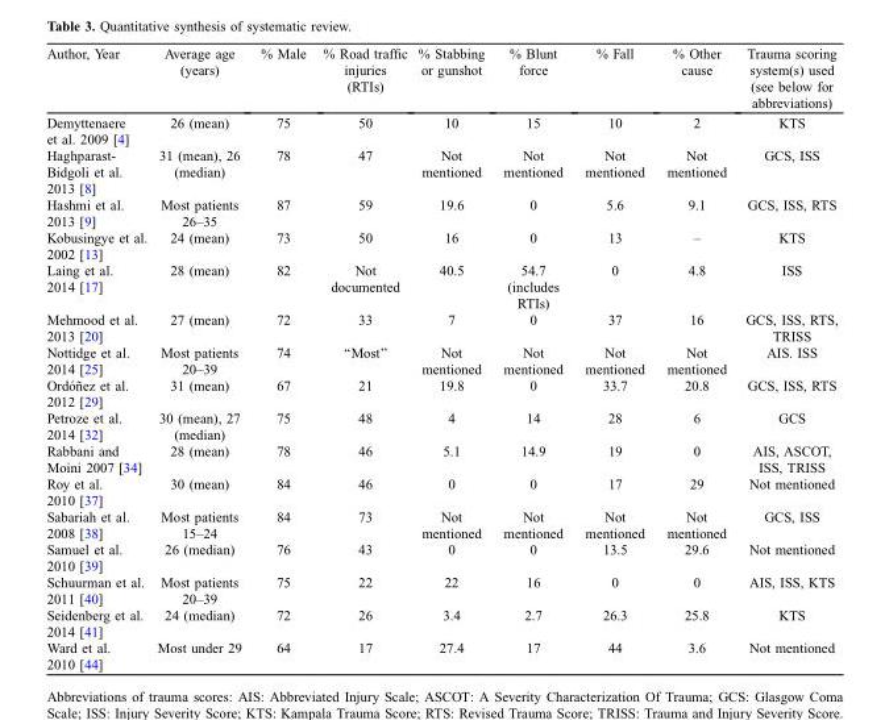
<table><thead><tr><td>Author, Year</td><td>Average age (years)</td><td>% Male</td><td>% Road traffic injuries (RTIs)</td><td>% Stabbing or gunshot</td><td>% Blunt force</td><td>% Fall</td><td>% Other cause</td><td>Trauma scoring system(s) used (see below for abbreviations)</td></tr></thead><tbody><tr><td>Demyttenaere et al. 2009 [4]</td><td>26 (mean)</td><td>75</td><td>50</td><td>10</td><td>15</td><td>10</td><td>2</td><td>KTS</td></tr><tr><td>Haghparast- Bidgoli et al. 2013 [8]</td><td>31 (mean), 26 (median)</td><td>78</td><td>47</td><td>Not mentioned</td><td>Not mentioned</td><td>Not mentioned</td><td>Not mentioned</td><td>GCS, ISS</td></tr><tr><td>Hashmi et al. 2013 [9]</td><td>Most patients 26–35</td><td>87</td><td>59</td><td>19.6</td><td>0</td><td>5.6</td><td>9.1</td><td>GCS, ISS, RTS</td></tr><tr><td>Kobusingye et al. 2002 [13]</td><td>24 (mean)</td><td>73</td><td>50</td><td>16</td><td>0</td><td>13</td><td>–</td><td>KTS</td></tr><tr><td>Laing et al. 2014 [17]</td><td>28 (mean)</td><td>82</td><td>Not documented</td><td>40.5</td><td>54.7 (includes RTIs)</td><td>0</td><td>4.8</td><td>ISS</td></tr><tr><td>Mehmood et al. 2013 [20]</td><td>27 (mean)</td><td>72</td><td>33</td><td>7</td><td>0</td><td>37</td><td>16</td><td>GCS, ISS, RTS, TRISS</td></tr><tr><td>Nottidge et al. 2014 [25]</td><td>Most patients 20–39</td><td>74</td><td>‘‘Most’’</td><td>Not mentioned</td><td>Not mentioned</td><td>Not mentioned</td><td>Not mentioned</td><td>AIS. ISS</td></tr><tr><td>Ordóñez et al. 2012 [29]</td><td>31 (mean)</td><td>67</td><td>21</td><td>19.8</td><td>0</td><td>33.7</td><td>20.8</td><td>GCS, ISS, RTS</td></tr><tr><td>Petroze et al. 2014 [32]</td><td>30 (mean), 27 (median)</td><td>75</td><td>48</td><td>4</td><td>14</td><td>28</td><td>6</td><td>GCS</td></tr><tr><td>Rabbani and Moini 2007 [34]</td><td>28 (mean)</td><td>78</td><td>46</td><td>5.1</td><td>14.9</td><td>19</td><td>0</td><td>AIS, ASCOT, ISS, TRISS</td></tr><tr><td>Roy et al. 2010 [37]</td><td>30 (mean)</td><td>84</td><td>46</td><td>0</td><td>0</td><td>17</td><td>29</td><td>Not mentioned</td></tr><tr><td>Sabariah et al. 2008 [38]</td><td>Most patients 15–24</td><td>84</td><td>73</td><td>Not mentioned</td><td>Not mentioned</td><td>Not mentioned</td><td>Not mentioned</td><td>GCS, ISS</td></tr><tr><td>Samuel et al. 2010 [39]</td><td>26 (median)</td><td>76</td><td>43</td><td>0</td><td>0</td><td>13.5</td><td>29.6</td><td>Not mentioned</td></tr><tr><td>Schuurman et al. 2011 [40]</td><td>Most patients 20–39</td><td>75</td><td>22</td><td>22</td><td>16</td><td>0</td><td>0</td><td>AIS, ISS, KTS</td></tr><tr><td>Seidenberg et al. 2014 [41]</td><td>24 (median)</td><td>72</td><td>26</td><td>3.4</td><td>2.7</td><td>26.3</td><td>25.8</td><td>KTS</td></tr><tr><td>Ward et al. 2010 [44]</td><td>Most under 29</td><td>64</td><td>17</td><td>27.4</td><td>17</td><td>44</td><td>3.6</td><td>Not mentioned</td></tr></tbody></table>